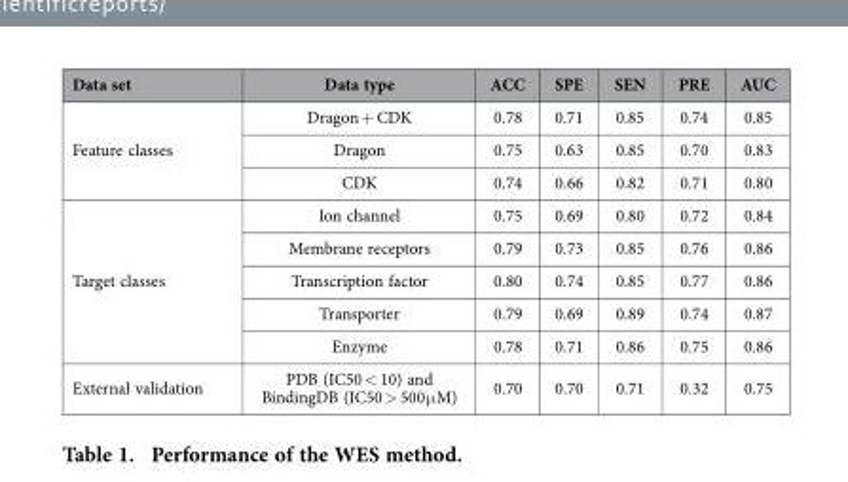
<table><thead><tr><td>Data set</td><td>Data type</td><td>ACC</td><td>SPE</td><td>SEN</td><td>PRE</td><td>AUC</td></tr></thead><tbody><tr><td rowspan="3">Feature classes</td><td>Dragon + CDK</td><td>0.78</td><td>0.71</td><td>0.85</td><td>0.74</td><td>0.85</td></tr><tr><td>Dragon</td><td>0.75</td><td>0.63</td><td>0.85</td><td>0.70</td><td>0.83</td></tr><tr><td>CDK</td><td>0.74</td><td>0.66</td><td>0.82</td><td>0.71</td><td>0.80</td></tr><tr><td rowspan="5">Target classes</td><td>Ion channel</td><td>0.75</td><td>0.69</td><td>0.80</td><td>0.72</td><td>0.84</td></tr><tr><td>Membrane receptors</td><td>0.79</td><td>0.73</td><td>0.85</td><td>0.76</td><td>0.86</td></tr><tr><td>Transcription factor</td><td>0.80</td><td>0.74</td><td>0.85</td><td>0.77</td><td>0.86</td></tr><tr><td>Transporter</td><td>0.79</td><td>0.69</td><td>0.89</td><td>0.74</td><td>0.87</td></tr><tr><td>Enzyme</td><td>0.78</td><td>0.71</td><td>0.86</td><td>0.75</td><td>0.86</td></tr><tr><td>External validation</td><td>PDB (IC50 &lt; 10) and BindingDB (IC50 &gt; 500 μ M)</td><td>0.70</td><td>0.70</td><td>0.71</td><td>0.32</td><td>0.75</td></tr></tbody></table>